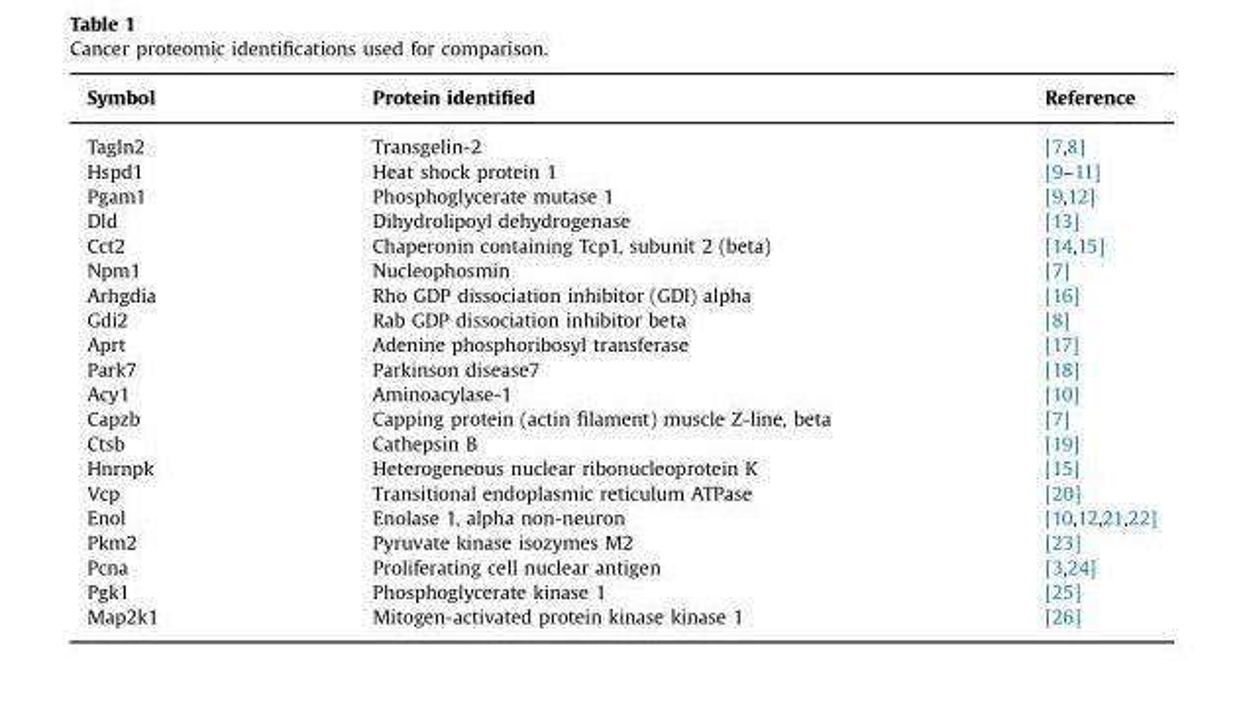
<table><thead><tr><td>Symbol</td><td>Protein identified</td><td>Reference</td></tr></thead><tbody><tr><td>Tagln2</td><td>Transgelin-2</td><td>[7,8]</td></tr><tr><td>Hspd1</td><td>Heat shock protein 1</td><td>[9–11]</td></tr><tr><td>Pgam1</td><td>Phosphoglycerate mutase 1</td><td>[9,12]</td></tr><tr><td>Dld</td><td>Dihydrolipoyl dehydrogenase</td><td>[13]</td></tr><tr><td>Cct2</td><td>Chaperonin containing Tcp1, subunit 2 (beta)</td><td>[14,15]</td></tr><tr><td>Npm1</td><td>Nucleophosmin</td><td>[7]</td></tr><tr><td>Arhgdia</td><td>Rho GDP dissociation inhibitor (GDI) alpha</td><td>[16]</td></tr><tr><td>Gdi2</td><td>Rab GDP dissociation inhibitor beta</td><td>[8]</td></tr><tr><td>Aprt</td><td>Adenine phosphoribosyl transferase</td><td>[17]</td></tr><tr><td>Park7</td><td>Parkinson disease7</td><td>[18]</td></tr><tr><td>Acy1</td><td>Aminoacylase-1</td><td>[10]</td></tr><tr><td>Capzb</td><td>Capping protein (actin filament) muscle Z-line, beta</td><td>[7]</td></tr><tr><td>Ctsb</td><td>Cathepsin B</td><td>[19]</td></tr><tr><td>Hnrnpk</td><td>Heterogeneous nuclear ribonucleoprotein K</td><td>[15]</td></tr><tr><td>Vcp</td><td>Transitional endoplasmic reticulum ATPase</td><td>[20]</td></tr><tr><td>Enol</td><td>Enolase 1, alpha non-neuron</td><td>[10,12,21,22]</td></tr><tr><td>Pkm2</td><td>Pyruvate kinase isozymes M2</td><td>[23]</td></tr><tr><td>Pcna</td><td>Proliferating cell nuclear antigen</td><td>[3,24]</td></tr><tr><td>Pgk1</td><td>Phosphoglycerate kinase 1</td><td>[25]</td></tr><tr><td>Map2k1</td><td>Mitogen-activated protein kinase kinase 1</td><td>[26]</td></tr></tbody></table>